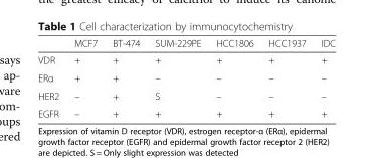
<table><thead><tr><td></td><td>MCF7</td><td>BT-474</td><td>SUM-229PE</td><td>HCC1806</td><td>HCC1937</td><td>IDC</td></tr></thead><tbody><tr><td>VDR</td><td>+</td><td>+</td><td>+</td><td>+</td><td>+</td><td>+</td></tr><tr><td>ERα</td><td>+</td><td>+</td><td>–</td><td>–</td><td>–</td><td>–</td></tr><tr><td>HER2</td><td>–</td><td>+</td><td>S</td><td>–</td><td>–</td><td>–</td></tr><tr><td>EGFR</td><td>–</td><td>+</td><td>+</td><td>+</td><td>+</td><td>+</td></tr></tbody></table>